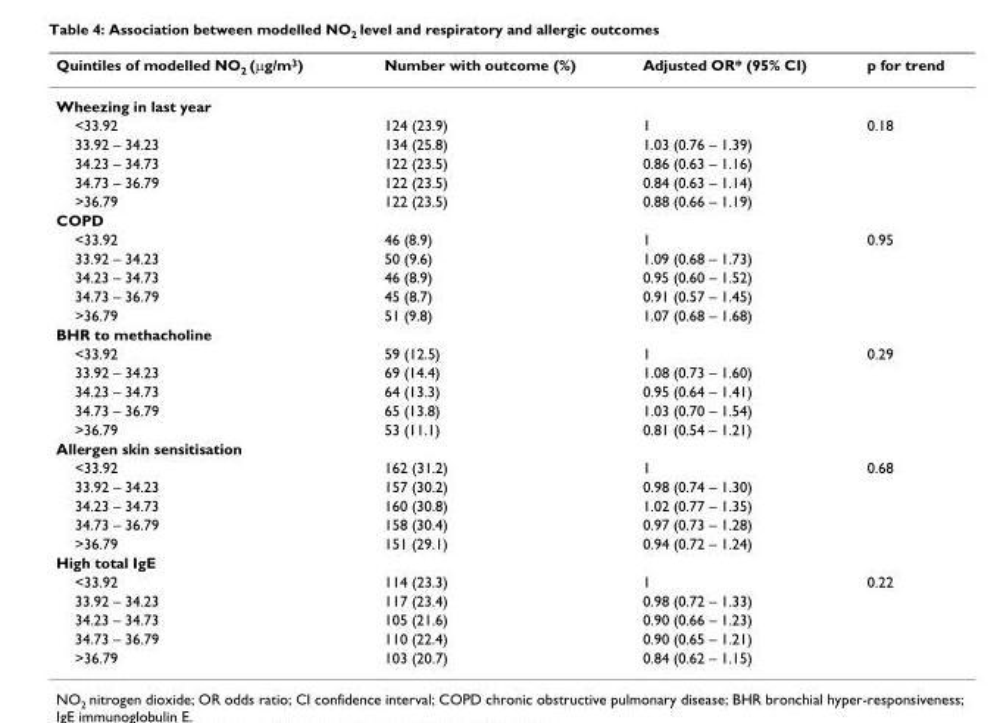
<table><thead><tr><td>Quintiles of modelled NO<sub>2</sub> (μg/m<sup>3</sup>)</td><td>Number with outcome (%)</td><td>Adjusted OR* (95% CI)</td><td>p for trend</td></tr></thead><tbody><tr><td colspan="4">Wheezing in last year</td></tr><tr><td>&lt;33.92</td><td>124 (23.9)</td><td>1</td><td>0.18</td></tr><tr><td>33.92 – 34.23</td><td>134 (25.8)</td><td>1.03 (0.76 – 1.39)</td><td></td></tr><tr><td>34.23 – 34.73</td><td>122 (23.5)</td><td>0.86 (0.63 – 1.16)</td><td></td></tr><tr><td>34.73 – 36.79</td><td>122 (23.5)</td><td>0.84 (0.63 – 1.14)</td><td></td></tr><tr><td>&gt;36.79</td><td>122 (23.5)</td><td>0.88 (0.66 – 1.19)</td><td></td></tr><tr><td colspan="4">COPD</td></tr><tr><td>&lt;33.92</td><td>46 (8.9)</td><td>1</td><td>0.95</td></tr><tr><td>33.92 – 34.23</td><td>50 (9.6)</td><td>1.09 (0.68 – 1.73)</td><td></td></tr><tr><td>34.23 – 34.73</td><td>46 (8.9)</td><td>0.95 (0.60 – 1.52)</td><td></td></tr><tr><td>34.73 – 36.79</td><td>45 (8.7)</td><td>0.91 (0.57 – 1.45)</td><td></td></tr><tr><td>&gt;36.79</td><td>51 (9.8)</td><td>1.07 (0.68 – 1.68)</td><td></td></tr><tr><td colspan="4">BHR to methacholine</td></tr><tr><td>&lt;33.92</td><td>59 (12.5)</td><td>1</td><td>0.29</td></tr><tr><td>33.92 – 34.23</td><td>69 (14.4)</td><td>1.08 (0.73 – 1.60)</td><td></td></tr><tr><td>34.23 – 34.73</td><td>64 (13.3)</td><td>0.95 (0.64 – 1.41)</td><td></td></tr><tr><td>34.73 – 36.79</td><td>65 (13.8)</td><td>1.03 (0.70 – 1.54)</td><td></td></tr><tr><td>&gt;36.79</td><td>53 (11.1)</td><td>0.81 (0.54 – 1.21)</td><td></td></tr><tr><td colspan="4">Allergen skin sensitisation</td></tr><tr><td>&lt;33.92</td><td>162 (31.2)</td><td>1</td><td>0.68</td></tr><tr><td>33.92 – 34.23</td><td>157 (30.2)</td><td>0.98 (0.74 – 1.30)</td><td></td></tr><tr><td>34.23 – 34.73</td><td>160 (30.8)</td><td>1.02 (0.77 – 1.35)</td><td></td></tr><tr><td>34.73 – 36.79</td><td>158 (30.4)</td><td>0.97 (0.73 – 1.28)</td><td></td></tr><tr><td>&gt;36.79</td><td>151 (29.1)</td><td>0.94 (0.72 – 1.24)</td><td></td></tr><tr><td colspan="4">High total IgE</td></tr><tr><td>&lt;33.92</td><td>114 (23.3)</td><td>1</td><td>0.22</td></tr><tr><td>33.92 – 34.23</td><td>117 (23.4)</td><td>0.98 (0.72 – 1.33)</td><td></td></tr><tr><td>34.23 – 34.73</td><td>105 (21.6)</td><td>0.90 (0.66 – 1.23)</td><td></td></tr><tr><td>34.73 – 36.79</td><td>110 (22.4)</td><td>0.90 (0.65 – 1.21)</td><td></td></tr><tr><td>&gt;36.79</td><td>103 (20.7)</td><td>0.84 (0.62 – 1.15)</td><td></td></tr></tbody></table>